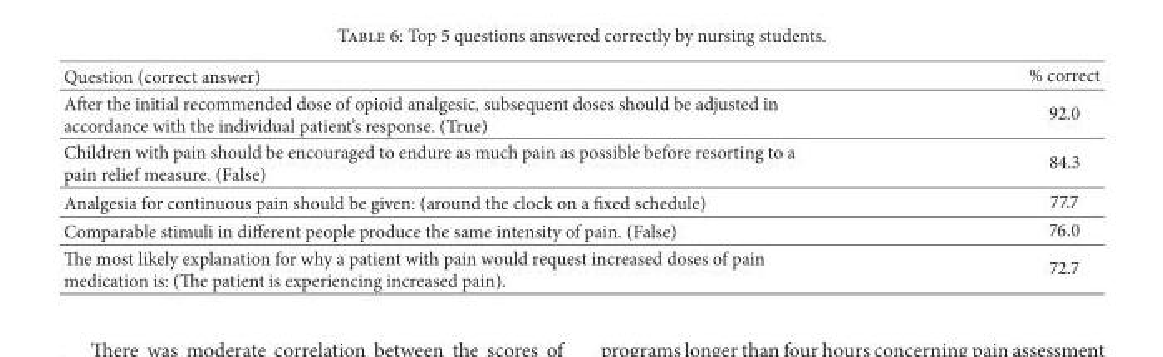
<table><thead><tr><td>Question (correct answer)</td><td>% correct</td></tr></thead><tbody><tr><td>After the initial recommended dose of opioid analgesic, subsequent doses should be adjusted in accordance with the individual patient’s response. (True)</td><td>92.0</td></tr><tr><td>Children with pain should be encouraged to endure as much pain as possible before resorting to a pain relief measure. (False)</td><td>84.3</td></tr><tr><td>Analgesia for continuous pain should be given: (around the clock on a fixed schedule)</td><td>77.7</td></tr><tr><td>Comparable stimuli in different people produce the same intensity of pain. (False)</td><td>76.0</td></tr><tr><td>The most likely explanation for why a patient with pain would request increased doses of pain medication is: (The patient is experiencing increased pain).</td><td>72.7</td></tr></tbody></table>